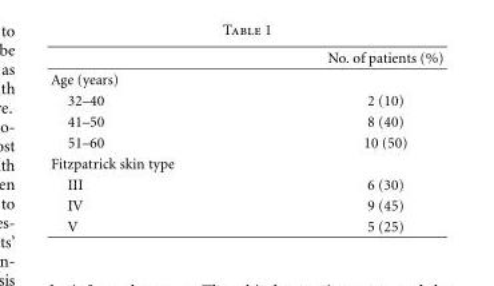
<table><thead><tr><td></td><td>No. of patients (%)</td></tr></thead><tbody><tr><td colspan="2">Age (years)</td></tr><tr><td>32–40</td><td>2 (10)</td></tr><tr><td>41–50</td><td>8 (40)</td></tr><tr><td>51–60</td><td>10 (50)</td></tr><tr><td colspan="2">Fitzpatrick skin type</td></tr><tr><td>III</td><td>6 (30)</td></tr><tr><td>IV</td><td>9 (45)</td></tr><tr><td>V</td><td>5 (25)</td></tr></tbody></table>